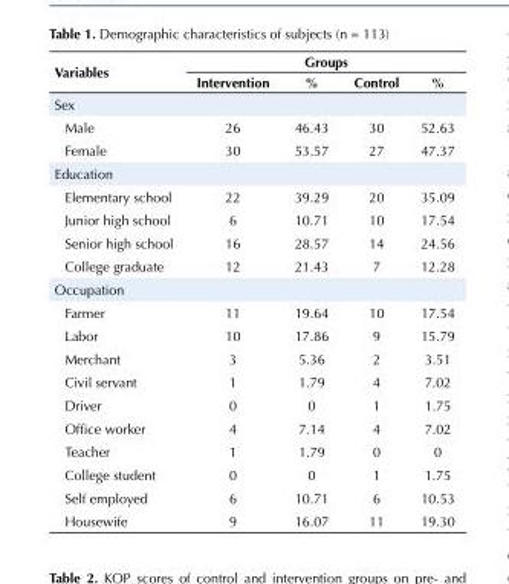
<table><tbody><tr><td rowspan="2">Variables</td><td colspan="4">Groups</td></tr><tr><td>Intervention</td><td>%</td><td>Control</td><td>%</td></tr><tr><td colspan="5">Sex</td></tr><tr><td>Male</td><td>26</td><td>46.43</td><td>30</td><td>52.63</td></tr><tr><td>Female</td><td>30</td><td>53.57</td><td>27</td><td>47.37</td></tr><tr><td colspan="5">Education</td></tr><tr><td>Elementary school</td><td>22</td><td>39.29</td><td>20</td><td>35.09</td></tr><tr><td>Junior high school</td><td>6</td><td>10.71</td><td>10</td><td>17.54</td></tr><tr><td>Senior high school</td><td>16</td><td>28.57</td><td>14</td><td>24.56</td></tr><tr><td>College graduate</td><td>12</td><td>21.43</td><td>7</td><td>12.28</td></tr><tr><td colspan="5">Occupation</td></tr><tr><td>Farmer</td><td>11</td><td>19.64</td><td>10</td><td>17.54</td></tr><tr><td>Labor</td><td>10</td><td>17.86</td><td>9</td><td>15.79</td></tr><tr><td>Merchant</td><td>3</td><td>5.36</td><td>2</td><td>3.51</td></tr><tr><td>Civil servant</td><td>1</td><td>1.79</td><td>4</td><td>7.02</td></tr><tr><td>Driver</td><td>0</td><td>0</td><td>1</td><td>1.75</td></tr><tr><td>Office worker</td><td>4</td><td>7.14</td><td>4</td><td>7.02</td></tr><tr><td>Teacher</td><td>1</td><td>1.79</td><td>0</td><td>0</td></tr><tr><td>College student</td><td>0</td><td>0</td><td>1</td><td>1.75</td></tr><tr><td>Self employed</td><td>6</td><td>10.71</td><td>6</td><td>10.53</td></tr><tr><td>Housewife</td><td>9</td><td>16.07</td><td>11</td><td>19.30</td></tr></tbody></table>